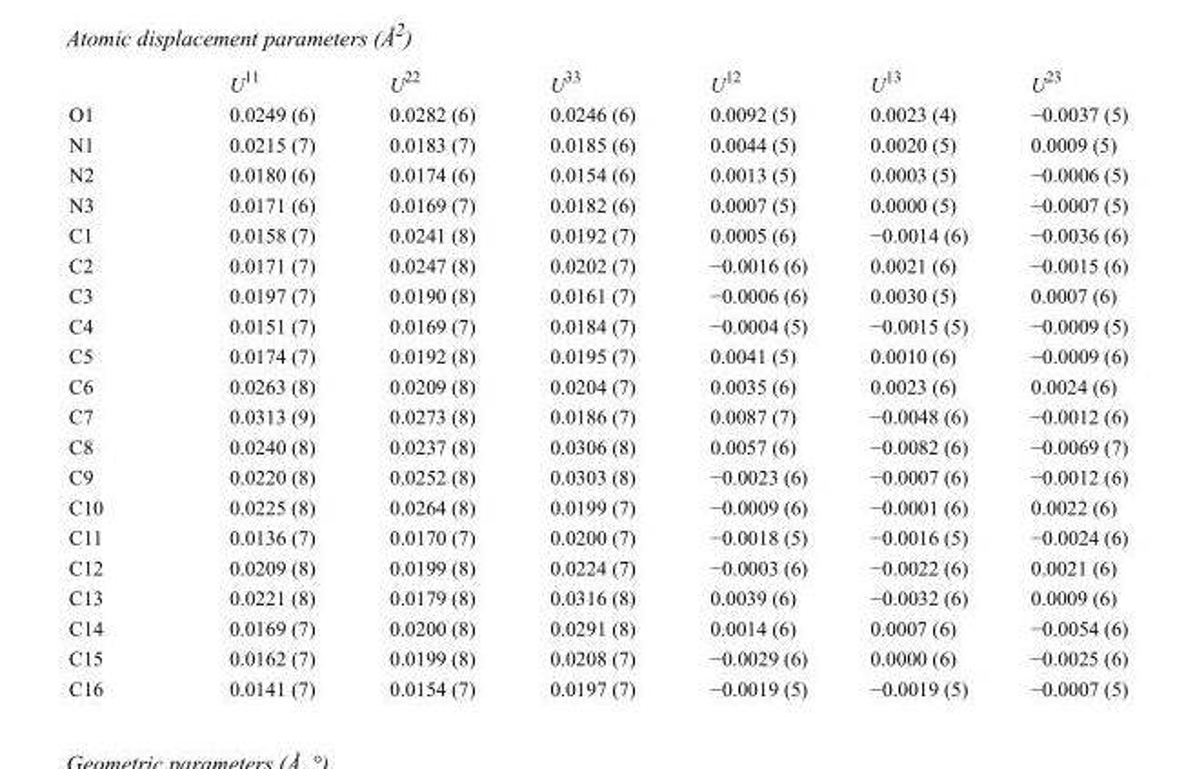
<table><thead><tr><td></td><td>U<sup>11</sup></td><td>U<sup>22</sup></td><td>U<sup>33</sup></td><td>U<sup>12</sup></td><td>U<sup>13</sup></td><td>U<sup>23</sup></td></tr></thead><tbody><tr><td>O1</td><td>0.0249 (6)</td><td>0.0282 (6)</td><td>0.0246 (6)</td><td>0.0092 (5)</td><td>0.0023 (4)</td><td>−0.0037 (5)</td></tr><tr><td>N1</td><td>0.0215 (7)</td><td>0.0183 (7)</td><td>0.0185 (6)</td><td>0.0044 (5)</td><td>0.0020 (5)</td><td>0.0009 (5)</td></tr><tr><td>N2</td><td>0.0180 (6)</td><td>0.0174 (6)</td><td>0.0154 (6)</td><td>0.0013 (5)</td><td>0.0003 (5)</td><td>−0.0006 (5)</td></tr><tr><td>N3</td><td>0.0171 (6)</td><td>0.0169 (7)</td><td>0.0182 (6)</td><td>0.0007 (5)</td><td>0.0000 (5)</td><td>−0.0007 (5)</td></tr><tr><td>C1</td><td>0.0158 (7)</td><td>0.0241 (8)</td><td>0.0192 (7)</td><td>0.0005 (6)</td><td>−0.0014 (6)</td><td>−0.0036 (6)</td></tr><tr><td>C2</td><td>0.0171 (7)</td><td>0.0247 (8)</td><td>0.0202 (7)</td><td>−0.0016 (6)</td><td>0.0021 (6)</td><td>−0.0015 (6)</td></tr><tr><td>C3</td><td>0.0197 (7)</td><td>0.0190 (8)</td><td>0.0161 (7)</td><td>−0.0006 (6)</td><td>0.0030 (5)</td><td>0.0007 (6)</td></tr><tr><td>C4</td><td>0.0151 (7)</td><td>0.0169 (7)</td><td>0.0184 (7)</td><td>−0.0004 (5)</td><td>−0.0015 (5)</td><td>−0.0009 (5)</td></tr><tr><td>C5</td><td>0.0174 (7)</td><td>0.0192 (8)</td><td>0.0195 (7)</td><td>0.0041 (5)</td><td>0.0010 (6)</td><td>−0.0009 (6)</td></tr><tr><td>C6</td><td>0.0263 (8)</td><td>0.0209 (8)</td><td>0.0204 (7)</td><td>0.0035 (6)</td><td>0.0023 (6)</td><td>0.0024 (6)</td></tr><tr><td>C7</td><td>0.0313 (9)</td><td>0.0273 (8)</td><td>0.0186 (7)</td><td>0.0087 (7)</td><td>−0.0048 (6)</td><td>−0.0012 (6)</td></tr><tr><td>C8</td><td>0.0240 (8)</td><td>0.0237 (8)</td><td>0.0306 (8)</td><td>0.0057 (6)</td><td>−0.0082 (6)</td><td>−0.0069 (7)</td></tr><tr><td>C9</td><td>0.0220 (8)</td><td>0.0252 (8)</td><td>0.0303 (8)</td><td>−0.0023 (6)</td><td>−0.0007 (6)</td><td>−0.0012 (6)</td></tr><tr><td>C10</td><td>0.0225 (8)</td><td>0.0264 (8)</td><td>0.0199 (7)</td><td>−0.0009 (6)</td><td>−0.0001 (6)</td><td>0.0022 (6)</td></tr><tr><td>C11</td><td>0.0136 (7)</td><td>0.0170 (7)</td><td>0.0200 (7)</td><td>−0.0018 (5)</td><td>−0.0016 (5)</td><td>−0.0024 (6)</td></tr><tr><td>C12</td><td>0.0209 (8)</td><td>0.0199 (8)</td><td>0.0224 (7)</td><td>−0.0003 (6)</td><td>−0.0022 (6)</td><td>0.0021 (6)</td></tr><tr><td>C13</td><td>0.0221 (8)</td><td>0.0179 (8)</td><td>0.0316 (8)</td><td>0.0039 (6)</td><td>−0.0032 (6)</td><td>0.0009 (6)</td></tr><tr><td>C14</td><td>0.0169 (7)</td><td>0.0200 (8)</td><td>0.0291 (8)</td><td>0.0014 (6)</td><td>0.0007 (6)</td><td>−0.0054 (6)</td></tr><tr><td>C15</td><td>0.0162 (7)</td><td>0.0199 (8)</td><td>0.0208 (7)</td><td>−0.0029 (6)</td><td>0.0000 (6)</td><td>−0.0025 (6)</td></tr><tr><td>C16</td><td>0.0141 (7)</td><td>0.0154 (7)</td><td>0.0197 (7)</td><td>−0.0019 (5)</td><td>−0.0019 (5)</td><td>−0.0007 (5)</td></tr></tbody></table>